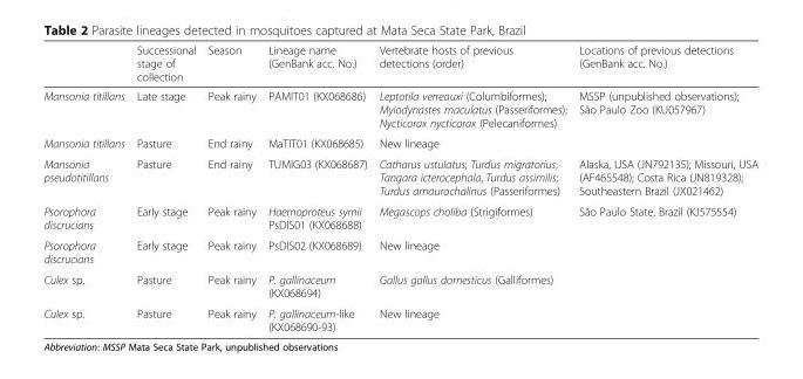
<table><thead><tr><td></td><td>Successional stage of collection</td><td>Season</td><td>Lineage name (GenBank acc. No.)</td><td>Vertebrate hosts of previous detections (order)</td><td>Locations of previous detections (GenBank acc. No.)</td></tr></thead><tbody><tr><td>Mansonia titillans</td><td>Late stage</td><td>Peak rainy</td><td>PAMIT01 (KX068686)</td><td>Leptotila verreauxi (Columbiformes); Myiodynastes maculatus (Passeriformes); Nycticorax nycticorax (Pelecaniformes)</td><td>MSSP (unpublished observations); São Paulo Zoo (KU057967)</td></tr><tr><td>Mansonia titillans</td><td>Pasture</td><td>End rainy</td><td>MaTIT01 (KX068685)</td><td>New lineage</td><td></td></tr><tr><td>Mansonia pseudotitillans</td><td>Pasture</td><td>End rainy</td><td>TUMIG03 (KX068687)</td><td>Catharus ustulatus; Turdus migratorius; Tangara icterocephala, Turdus assimilis; Turdus amaurochalinus (Passeriformes)</td><td>Alaska, USA (JN792135); Missouri, USA (AF465548); Costa Rica (JN819328); Southeastern Brazil (JX021462)</td></tr><tr><td>Psorophora discrucians</td><td>Early stage</td><td>Peak rainy</td><td>Haemoproteus syrnii PsDIS01 (KX068688)</td><td>Megascops choliba (Strigiformes)</td><td>São Paulo State, Brazil (KJ575554)</td></tr><tr><td>Psorophora discrucians</td><td>Early stage</td><td>Peak rainy</td><td>PsDIS02 (KX068689)</td><td>New lineage</td><td></td></tr><tr><td>Culex sp.</td><td>Pasture</td><td>Peak rainy</td><td>P. gallinaceum (KX068694)</td><td>Gallus gallus domesticus (Galliformes)</td><td></td></tr><tr><td>Culex sp.</td><td>Pasture</td><td>Peak rainy</td><td>P. gallinaceum-like (KX068690-93)</td><td>New lineage</td><td></td></tr></tbody></table>